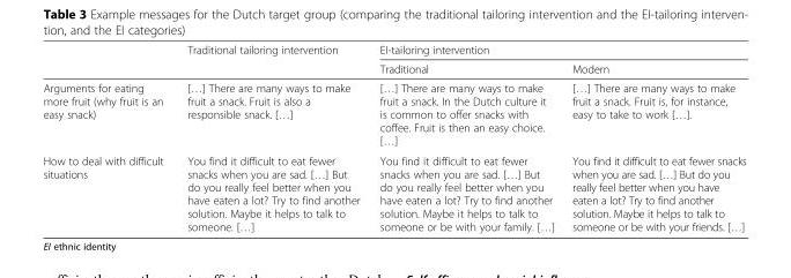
<table><thead><tr><td rowspan="2"></td><td rowspan="2">Traditional tailoring intervention</td><td colspan="2">EI-tailoring intervention</td></tr><tr><td>Traditional</td><td>Modern</td></tr></thead><tbody><tr><td>Arguments for eating more fruit (why fruit is an easy snack)</td><td>[…] There are many ways to make fruit a snack. Fruit is also a responsible snack. […]</td><td>[…] There are many ways to make fruit a snack. In the Dutch culture it is common to offer snacks with coffee. Fruit is then an easy choice. […]</td><td>[…] There are many ways to make fruit a snack. Fruit is, for instance, easy to take to work […].</td></tr><tr><td>How to deal with difficult situations</td><td>You find it difficult to eat fewer snacks when you are sad. […] But do you really feel better when you have eaten a lot? Try to find another solution. Maybe it helps to talk to someone. […]</td><td>You find it difficult to eat fewer snacks when you are sad. […] But do you really feel better when you have eaten a lot? Try to find another solution. Maybe it helps to talk to someone or be with your family. […]</td><td>You find it difficult to eat fewer snacks when you are sad. […] But do you really feel better when you have eaten a lot? Try to find another solution. Maybe it helps to talk to someone or be with your friends. […]</td></tr></tbody></table>